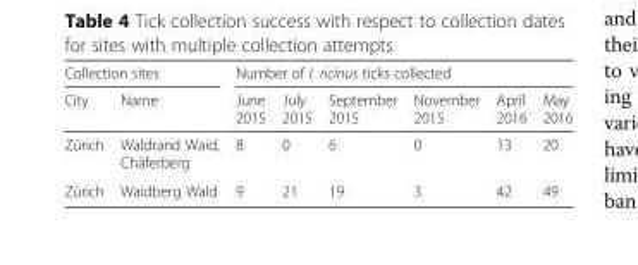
<table><thead><tr><td colspan="2">Collection sites</td><td colspan="6">Number of I. ricinus ticks collected</td></tr><tr><td>City</td><td>Name</td><td>June 2015</td><td>July 2015</td><td>September 2015</td><td>November 2015</td><td>April 2016</td><td>May 2016</td></tr></thead><tbody><tr><td>Zürich</td><td>Waldrand Waid, Chäferberg</td><td>8</td><td>0</td><td>6</td><td>0</td><td>13</td><td>20</td></tr><tr><td>Zürich</td><td>Waidberg Wald</td><td>9</td><td>21</td><td>19</td><td>3</td><td>42</td><td>49</td></tr></tbody></table>